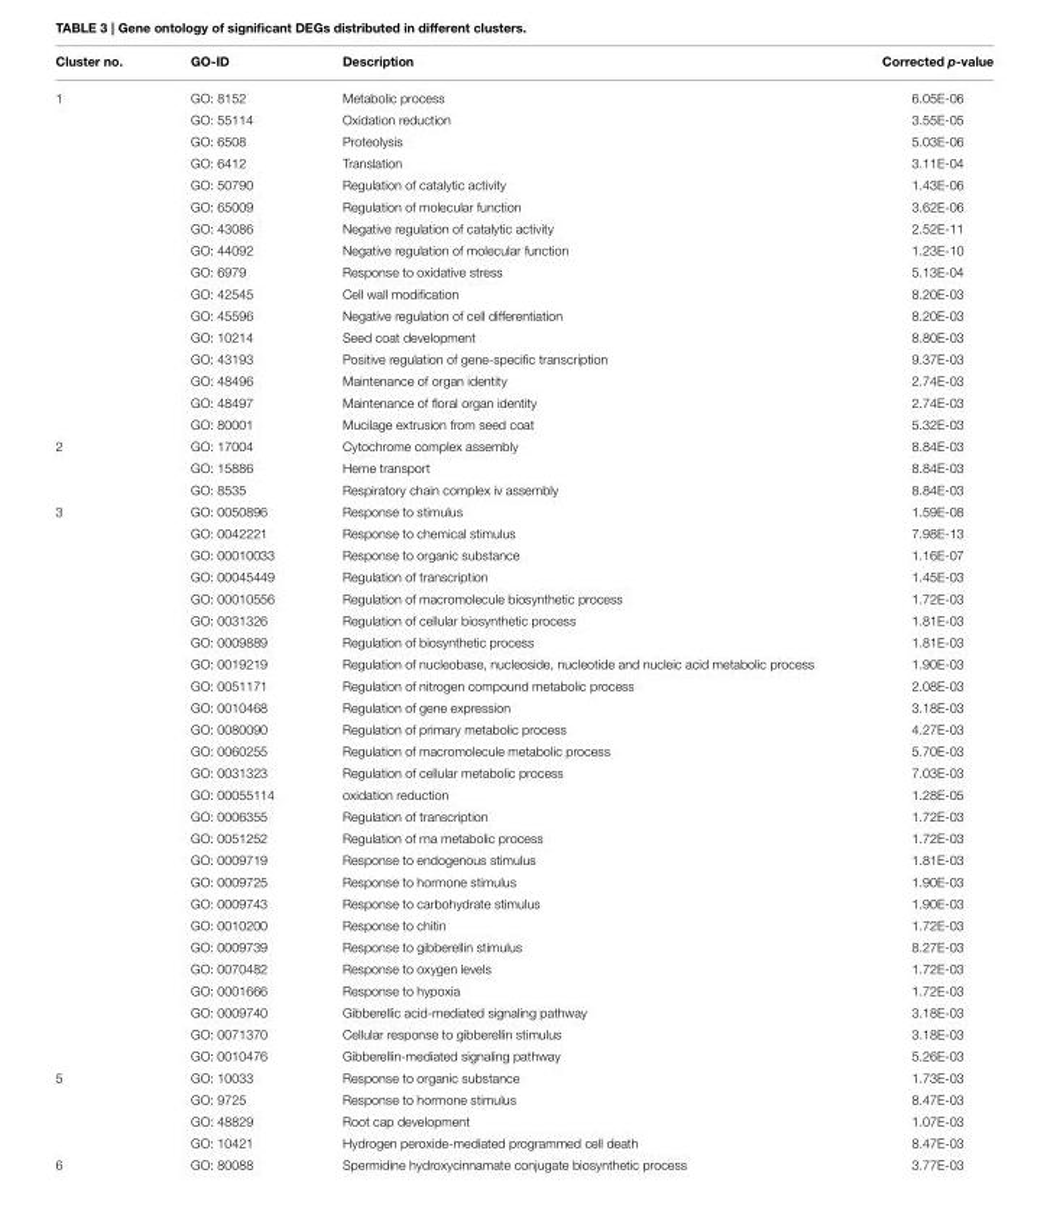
<table><thead><tr><td>Cluster no.</td><td>GO-ID</td><td>Description</td><td>Corrected p-value</td></tr></thead><tbody><tr><td rowspan="16">1</td><td>GO: 8152</td><td>Metabolic process</td><td>6.05E-06</td></tr><tr><td>GO: 55114</td><td>Oxidation reduction</td><td>3.55E-05</td></tr><tr><td>GO: 6508</td><td>Proteolysis</td><td>5.03E-06</td></tr><tr><td>GO: 6412</td><td>Translation</td><td>3.11E-04</td></tr><tr><td>GO: 50790</td><td>Regulation of catalytic activity</td><td>1.43E-06</td></tr><tr><td>GO: 65009</td><td>Regulation of molecular function</td><td>3.62E-06</td></tr><tr><td>GO: 43086</td><td>Negative regulation of catalytic activity</td><td>2.52E-11</td></tr><tr><td>GO: 44092</td><td>Negative regulation of molecular function</td><td>1.23E-10</td></tr><tr><td>GO: 6979</td><td>Response to oxidative stress</td><td>5.13E-04</td></tr><tr><td>GO: 42545</td><td>Cell wall modification</td><td>8.20E-03</td></tr><tr><td>GO: 45596</td><td>Negative regulation of cell differentiation</td><td>8.20E-03</td></tr><tr><td>GO: 10214</td><td>Seed coat development</td><td>8.80E-03</td></tr><tr><td>GO: 43193</td><td>Positive regulation of gene-specific transcription</td><td>9.37E-03</td></tr><tr><td>GO: 48496</td><td>Maintenance of organ identity</td><td>2.74E-03</td></tr><tr><td>GO: 48497</td><td>Maintenance of floral organ identity</td><td>2.74E-03</td></tr><tr><td>GO: 80001</td><td>Mucilage extrusion from seed coat</td><td>5.32E-03</td></tr><tr><td rowspan="3">2</td><td>GO: 17004</td><td>Cytochrome complex assembly</td><td>8.84E-03</td></tr><tr><td>GO: 15886</td><td>Heme transport</td><td>8.84E-03</td></tr><tr><td>GO: 8535</td><td>Respiratory chain complex iv assembly</td><td>8.84E-03</td></tr><tr><td rowspan="26">3</td><td>GO: 0050896</td><td>Response to stimulus</td><td>1.59E-08</td></tr><tr><td>GO: 0042221</td><td>Response to chemical stimulus</td><td>7.98E-13</td></tr><tr><td>GO: 00010033</td><td>Response to organic substance</td><td>1.16E-07</td></tr><tr><td>GO: 00045449</td><td>Regulation of transcription</td><td>1.45E-03</td></tr><tr><td>GO: 00010556</td><td>Regulation of macromolecule biosynthetic process</td><td>1.72E-03</td></tr><tr><td>GO: 0031326</td><td>Regulation of cellular biosynthetic process</td><td>1.81E-03</td></tr><tr><td>GO: 0009889</td><td>Regulation of biosynthetic process</td><td>1.81E-03</td></tr><tr><td>GO: 0019219</td><td>Regulation of nucleobase, nucleoside, nucleotide and nucleic acid metabolic process</td><td>1.90E-03</td></tr><tr><td>GO: 0051171</td><td>Regulation of nitrogen compound metabolic process</td><td>2.08E-03</td></tr><tr><td>GO: 0010468</td><td>Regulation of gene expression</td><td>3.18E-03</td></tr><tr><td>GO: 0080090</td><td>Regulation of primary metabolic process</td><td>4.27E-03</td></tr><tr><td>GO: 0060255</td><td>Regulation of macromolecule metabolic process</td><td>5.70E-03</td></tr><tr><td>GO: 0031323</td><td>Regulation of cellular metabolic process</td><td>7.03E-03</td></tr><tr><td>GO: 00055114</td><td>oxidation reduction</td><td>1.28E-05</td></tr><tr><td>GO: 0006355</td><td>Regulation of transcription</td><td>1.72E-03</td></tr><tr><td>GO: 0051252</td><td>Regulation of rna metabolic process</td><td>1.72E-03</td></tr><tr><td>GO: 0009719</td><td>Response to endogenous stimulus</td><td>1.81E-03</td></tr><tr><td>GO: 0009725</td><td>Response to hormone stimulus</td><td>1.90E-03</td></tr><tr><td>GO: 0009743</td><td>Response to carbohydrate stimulus</td><td>1.90E-03</td></tr><tr><td>GO: 0010200</td><td>Response to chitin</td><td>1.72E-03</td></tr><tr><td>GO: 0009739</td><td>Response to gibberellin stimulus</td><td>8.27E-03</td></tr><tr><td>GO: 0070482</td><td>Response to oxygen levels</td><td>1.72E-03</td></tr><tr><td>GO: 0001666</td><td>Response to hypoxia</td><td>1.72E-03</td></tr><tr><td>GO: 0009740</td><td>Gibberellic acid-mediated signaling pathway</td><td>3.18E-03</td></tr><tr><td>GO: 0071370</td><td>Cellular response to gibberellin stimulus</td><td>3.18E-03</td></tr><tr><td>GO: 0010476</td><td>Gibberellin-mediated signaling pathway</td><td>5.26E-03</td></tr><tr><td rowspan="4">5</td><td>GO: 10033</td><td>Response to organic substance</td><td>1.73E-03</td></tr><tr><td>GO: 9725</td><td>Response to hormone stimulus</td><td>8.47E-03</td></tr><tr><td>GO: 48829</td><td>Root cap development</td><td>1.07E-03</td></tr><tr><td>GO: 10421</td><td>Hydrogen peroxide-mediated programmed cell death</td><td>8.47E-03</td></tr><tr><td>6</td><td>GO: 80088</td><td>Spermidine hydroxycinnamate conjugate biosynthetic process</td><td>3.77E-03</td></tr></tbody></table>